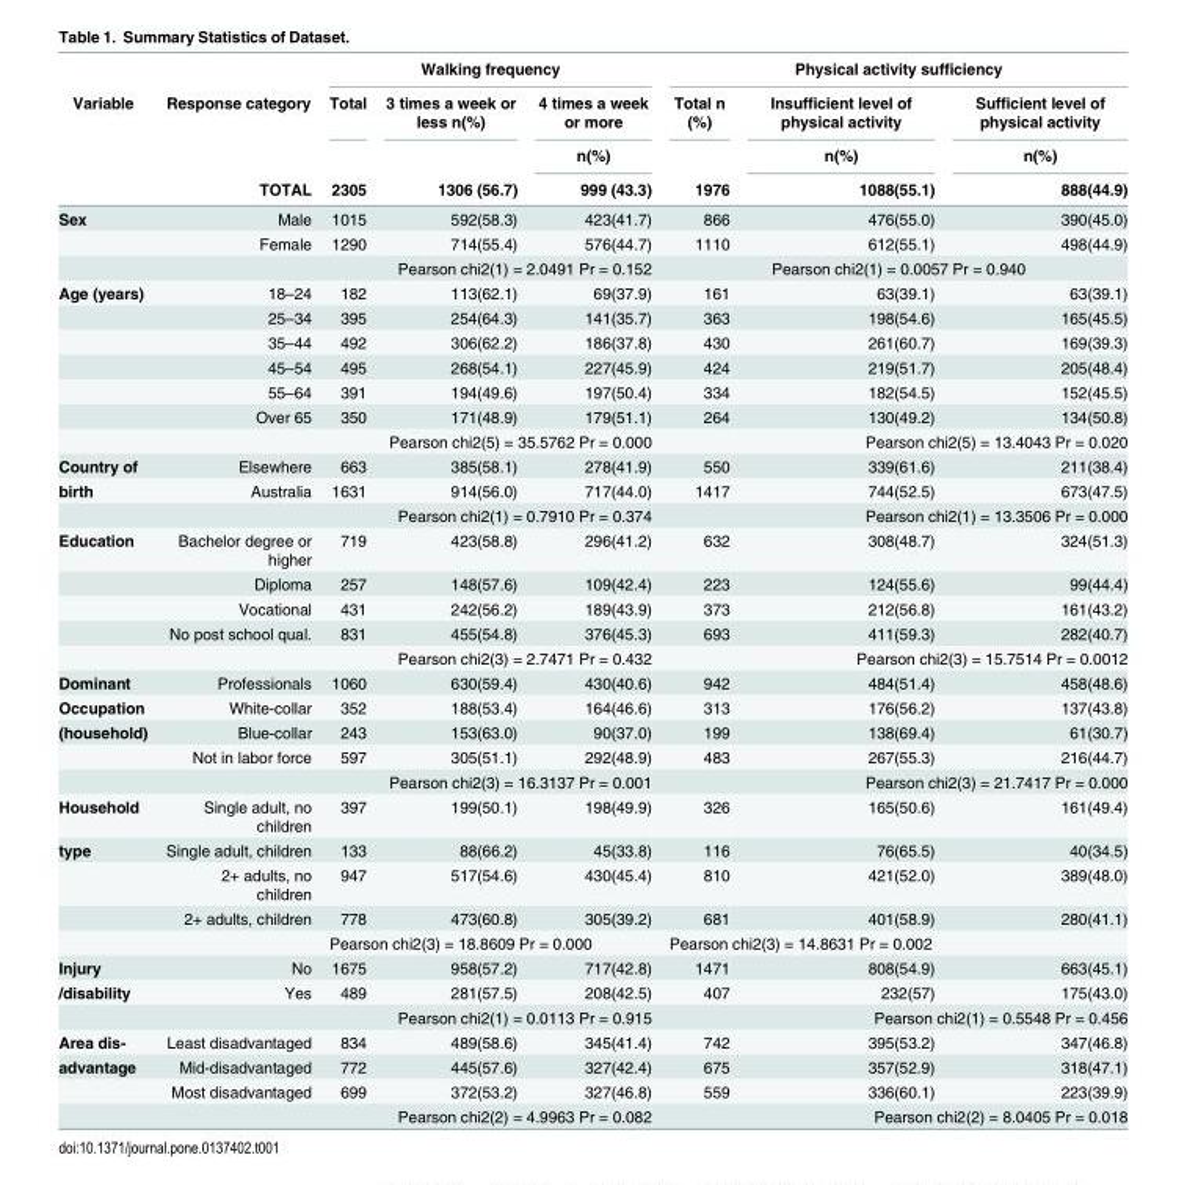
<table><thead><tr><td rowspan="4">Variable</td><td rowspan="4">Response category TOTAL</td><td colspan="3">Walking frequency</td><td colspan="3">Physical activity sufficiency</td></tr><tr><td rowspan="3">Total 2305</td><td rowspan="3">3 times a week or less n(%) 1306 (56.7)</td><td rowspan="3">4 times a week or more n(%) 999 (43.3)</td><td rowspan="3">Total n (%) 1976</td><td rowspan="3">Insufficient level of physical activity n(%) 1088(55.1)</td><td rowspan="3">Sufficient level of physical activity n(%) 888(44.9)</td></tr><tr></tr><tr></tr></thead><tbody><tr><td rowspan="3">Sex</td><td>Male</td><td>1015</td><td>592(58.3)</td><td>423(41.7)</td><td>866</td><td>476(55.0)</td><td>390(45.0)</td></tr><tr><td>Female</td><td>1290</td><td>714(55.4)</td><td>576(44.7)</td><td>1110</td><td>612(55.1)</td><td>498(44.9)</td></tr><tr><td></td><td colspan="3">Pearson chi2(1) = 2.0491 Pr = 0.152</td><td colspan="3">Pearson chi2(1) = 0.0057 Pr = 0.940</td></tr><tr><td rowspan="7">Age (years)</td><td>18–24</td><td>182</td><td>113(62.1)</td><td>69(37.9)</td><td>161</td><td>63(39.1)</td><td>63(39.1)</td></tr><tr><td>25–34</td><td>395</td><td>254(64.3)</td><td>141(35.7)</td><td>363</td><td>198(54.6)</td><td>165(45.5)</td></tr><tr><td>35–44</td><td>492</td><td>306(62.2)</td><td>186(37.8)</td><td>430</td><td>261(60.7)</td><td>169(39.3)</td></tr><tr><td>45–54</td><td>495</td><td>268(54.1)</td><td>227(45.9)</td><td>424</td><td>219(51.7)</td><td>205(48.4)</td></tr><tr><td>55–64</td><td>391</td><td>194(49.6)</td><td>197(50.4)</td><td>334</td><td>182(54.5)</td><td>152(45.5)</td></tr><tr><td>Over 65</td><td>350</td><td>171(48.9)</td><td>179(51.1)</td><td>264</td><td>130(49.2)</td><td>134(50.8)</td></tr><tr><td></td><td colspan="3">Pearson chi2(5) = 35.5762 Pr = 0.000</td><td colspan="3">Pearson chi2(5) = 13.4043 Pr = 0.020</td></tr><tr><td>Country of</td><td>Elsewhere</td><td>663</td><td>385(58.1)</td><td>278(41.9)</td><td>550</td><td>339(61.6)</td><td>211(38.4)</td></tr><tr><td rowspan="2">birth</td><td>Australia</td><td>1631</td><td>914(56.0)</td><td>717(44.0)</td><td>1417</td><td>744(52.5)</td><td>673(47.5)</td></tr><tr><td></td><td colspan="3">Pearson chi2(1) = 0.7910 Pr = 0.374</td><td colspan="3">Pearson chi2(1) = 13.3506 Pr = 0.000</td></tr><tr><td rowspan="5">Education</td><td>Bachelor degree or higher</td><td>719</td><td>423(58.8)</td><td>296(41.2)</td><td>632</td><td>308(48.7)</td><td>324(51.3)</td></tr><tr><td>Diploma</td><td>257</td><td>148(57.6)</td><td>109(42.4)</td><td>223</td><td>124(55.6)</td><td>99(44.4)</td></tr><tr><td>Vocational</td><td>431</td><td>242(56.2)</td><td>189(43.9)</td><td>373</td><td>212(56.8)</td><td>161(43.2)</td></tr><tr><td>No post school qual.</td><td>831</td><td>455(54.8)</td><td>376(45.3)</td><td>693</td><td>411(59.3)</td><td>282(40.7)</td></tr><tr><td></td><td colspan="3">Pearson chi2(3) = 2.7471 Pr = 0.432</td><td colspan="3">Pearson chi2(3) = 15.7514 Pr = 0.0012</td></tr><tr><td>Dominant</td><td>Professionals</td><td>1060</td><td>630(59.4)</td><td>430(40.6)</td><td>942</td><td>484(51.4)</td><td>458(48.6)</td></tr><tr><td>Occupation</td><td>White-collar</td><td>352</td><td>188(53.4)</td><td>164(46.6)</td><td>313</td><td>176(56.2)</td><td>137(43.8)</td></tr><tr><td rowspan="3">(household)</td><td>Blue-collar</td><td>243</td><td>153(63.0)</td><td>90(37.0)</td><td>199</td><td>138(69.4)</td><td>61(30.7)</td></tr><tr><td>Not in labor force</td><td>597</td><td>305(51.1)</td><td>292(48.9)</td><td>483</td><td>267(55.3)</td><td>216(44.7)</td></tr><tr><td></td><td colspan="3">Pearson chi2(3) = 16.3137 Pr = 0.001</td><td colspan="3">Pearson chi2(3) = 21.7417 Pr = 0.000</td></tr><tr><td>Household</td><td>Single adult, no children</td><td>397</td><td>199(50.1)</td><td>198(49.9)</td><td>326</td><td>165(50.6)</td><td>161(49.4)</td></tr><tr><td rowspan="4">type</td><td>Single adult, children</td><td>133</td><td>88(66.2)</td><td>45(33.8)</td><td>116</td><td>76(65.5)</td><td>40(34.5)</td></tr><tr><td>2+ adults, no children</td><td>947</td><td>517(54.6)</td><td>430(45.4)</td><td>810</td><td>421(52.0)</td><td>389(48.0)</td></tr><tr><td>2+ adults, children</td><td>778</td><td>473(60.8)</td><td>305(39.2)</td><td>681</td><td>401(58.9)</td><td>280(41.1)</td></tr><tr><td></td><td colspan="3">Pearson chi2(3) = 18.8609 Pr = 0.000</td><td colspan="3">Pearson chi2(3) = 14.8631 Pr = 0.002</td></tr><tr><td>Injury</td><td>No</td><td>1675</td><td>958(57.2)</td><td>717(42.8)</td><td>1471</td><td>808(54.9)</td><td>663(45.1)</td></tr><tr><td rowspan="2">/disability</td><td>Yes</td><td>489</td><td>281(57.5)</td><td>208(42.5)</td><td>407</td><td>232(57)</td><td>175(43.0)</td></tr><tr><td></td><td colspan="3">Pearson chi2(1) = 0.0113 Pr = 0.915</td><td colspan="3">Pearson chi2(1) = 0.5548 Pr = 0.456</td></tr><tr><td>Area dis-</td><td>Least disadvantaged</td><td>834</td><td>489(58.6)</td><td>345(41.4)</td><td>742</td><td>395(53.2)</td><td>347(46.8)</td></tr><tr><td rowspan="3">advantage</td><td>Mid-disadvantaged</td><td>772</td><td>445(57.6)</td><td>327(42.4)</td><td>675</td><td>357(52.9)</td><td>318(47.1)</td></tr><tr><td>Most disadvantaged</td><td>699</td><td>372(53.2)</td><td>327(46.8)</td><td>559</td><td>336(60.1)</td><td>223(39.9)</td></tr><tr><td></td><td colspan="3">Pearson chi2(2) = 4.9963 Pr = 0.082</td><td colspan="3">Pearson chi2(2) = 8.0405 Pr = 0.018</td></tr></tbody></table>